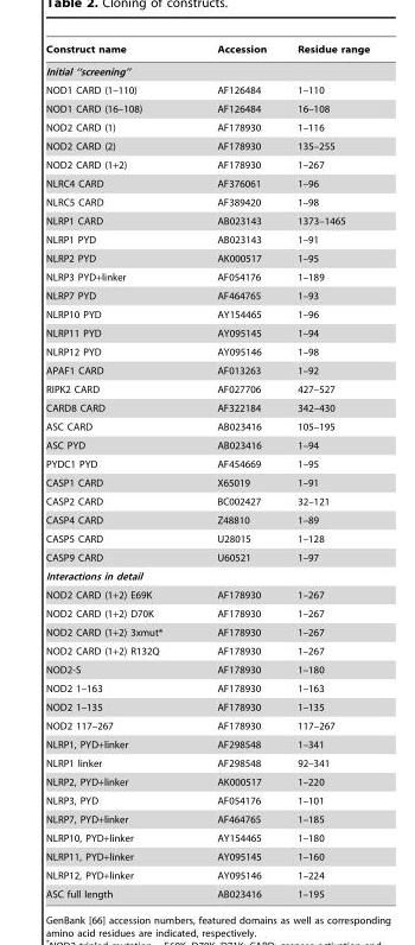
<table><thead><tr><td>Construct name</td><td>Accession</td><td>Residue range</td></tr></thead><tbody><tr><td colspan="3">Initial ‘‘screening’’</td></tr><tr><td>NOD1 CARD (1–110)</td><td>AF126484</td><td>1–110</td></tr><tr><td>NOD1 CARD (16–108)</td><td>AF126484</td><td>16–108</td></tr><tr><td>NOD2 CARD (1)</td><td>AF178930</td><td>1–116</td></tr><tr><td>NOD2 CARD (2)</td><td>AF178930</td><td>135–255</td></tr><tr><td>NOD2 CARD (1+2)</td><td>AF178930</td><td>1–267</td></tr><tr><td>NLRC4 CARD</td><td>AF376061</td><td>1–96</td></tr><tr><td>NLRC5 CARD</td><td>AF389420</td><td>1–98</td></tr><tr><td>NLRP1 CARD</td><td>AB023143</td><td>1373–1465</td></tr><tr><td>NLRP1 PYD</td><td>AB023143</td><td>1–91</td></tr><tr><td>NLRP2 PYD</td><td>AK000517</td><td>1–95</td></tr><tr><td>NLRP3 PYD+linker</td><td>AF054176</td><td>1–189</td></tr><tr><td>NLRP7 PYD</td><td>AF464765</td><td>1–93</td></tr><tr><td>NLRP10 PYD</td><td>AY154465</td><td>1–96</td></tr><tr><td>NLRP11 PYD</td><td>AY095145</td><td>1–94</td></tr><tr><td>NLRP12 PYD</td><td>AY095146</td><td>1–98</td></tr><tr><td>APAF1 CARD</td><td>AF013263</td><td>1–92</td></tr><tr><td>RIPK2 CARD</td><td>AF027706</td><td>427–527</td></tr><tr><td>CARD8 CARD</td><td>AF322184</td><td>342–430</td></tr><tr><td>ASC CARD</td><td>AB023416</td><td>105–195</td></tr><tr><td>ASC PYD</td><td>AB023416</td><td>1–94</td></tr><tr><td>PYDC1 PYD</td><td>AF454669</td><td>1–95</td></tr><tr><td>CASP1 CARD</td><td>X65019</td><td>1–91</td></tr><tr><td>CASP2 CARD</td><td>BC002427</td><td>32–121</td></tr><tr><td>CASP4 CARD</td><td>Z48810</td><td>1–89</td></tr><tr><td>CASP5 CARD</td><td>U28015</td><td>1–128</td></tr><tr><td>CASP9 CARD</td><td>U60521</td><td>1–97</td></tr><tr><td colspan="3">Interactions in detail</td></tr><tr><td>NOD2 CARD (1+2) E69K</td><td>AF178930</td><td>1–267</td></tr><tr><td>NOD2 CARD (1+2) D70K</td><td>AF178930</td><td>1–267</td></tr><tr><td>NOD2 CARD (1+2) 3xmut*</td><td>AF178930</td><td>1–267</td></tr><tr><td>NOD2 CARD (1+2) R132Q</td><td>AF178930</td><td>1–267</td></tr><tr><td>NOD2-S</td><td>AF178930</td><td>1–180</td></tr><tr><td>NOD2 1–163</td><td>AF178930</td><td>1–163</td></tr><tr><td>NOD2 1–135</td><td>AF178930</td><td>1–135</td></tr><tr><td>NOD2 117–267</td><td>AF178930</td><td>117–267</td></tr><tr><td>NLRP1, PYD+linker</td><td>AF298548</td><td>1–341</td></tr><tr><td>NLRP1 linker</td><td>AF298548</td><td>92–341</td></tr><tr><td>NLRP2, PYD+linker</td><td>AK000517</td><td>1–220</td></tr><tr><td>NLRP3, PYD</td><td>AF054176</td><td>1–101</td></tr><tr><td>NLRP7, PYD+linker</td><td>AF464765</td><td>1–185</td></tr><tr><td>NLRP10, PYD+linker</td><td>AY154465</td><td>1–180</td></tr><tr><td>NLRP11, PYD+linker</td><td>AY095145</td><td>1–160</td></tr><tr><td>NLRP12, PYD+linker</td><td>AY095146</td><td>1–224</td></tr><tr><td>ASC full length</td><td>AB023416</td><td>1–195</td></tr></tbody></table>